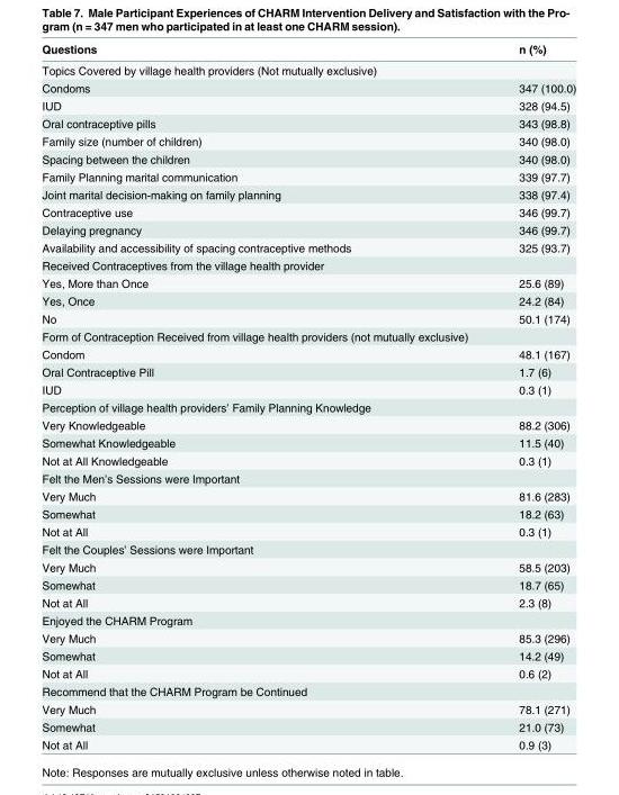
<table><thead><tr><td>Questions</td><td>n (%)</td></tr></thead><tbody><tr><td colspan="2">Topics Covered by village health providers (Not mutually exclusive)</td></tr><tr><td>Condoms</td><td>347 (100.0)</td></tr><tr><td>IUD</td><td>328 (94.5)</td></tr><tr><td>Oral contraceptive pills</td><td>343 (98.8)</td></tr><tr><td>Family size (number of children)</td><td>340 (98.0)</td></tr><tr><td>Spacing between the children</td><td>340 (98.0)</td></tr><tr><td>Family Planning marital communication</td><td>339 (97.7)</td></tr><tr><td>Joint marital decision-making on family planning</td><td>338 (97.4)</td></tr><tr><td>Contraceptive use</td><td>346 (99.7)</td></tr><tr><td>Delaying pregnancy</td><td>346 (99.7)</td></tr><tr><td>Availability and accessibility of spacing contraceptive methods</td><td>325 (93.7)</td></tr><tr><td colspan="2">Received Contraceptives from the village health provider</td></tr><tr><td>Yes, More than Once</td><td>25.6 (89)</td></tr><tr><td>Yes, Once</td><td>24.2 (84)</td></tr><tr><td>No</td><td>50.1 (174)</td></tr><tr><td colspan="2">Form of Contraception Received from village health providers (not mutually exclusive)</td></tr><tr><td>Condom</td><td>48.1 (167)</td></tr><tr><td>Oral Contraceptive Pill</td><td>1.7 (6)</td></tr><tr><td>IUD</td><td>0.3 (1)</td></tr><tr><td colspan="2">Perception of village health providers’ Family Planning Knowledge</td></tr><tr><td>Very Knowledgeable</td><td>88.2 (306)</td></tr><tr><td>Somewhat Knowledgeable</td><td>11.5 (40)</td></tr><tr><td>Not at All Knowledgeable</td><td>0.3 (1)</td></tr><tr><td colspan="2">Felt the Men’s Sessions were Important</td></tr><tr><td>Very Much</td><td>81.6 (283)</td></tr><tr><td>Somewhat</td><td>18.2 (63)</td></tr><tr><td>Not at All</td><td>0.3 (1)</td></tr><tr><td colspan="2">Felt the Couples’ Sessions were Important</td></tr><tr><td>Very Much</td><td>58.5 (203)</td></tr><tr><td>Somewhat</td><td>18.7 (65)</td></tr><tr><td>Not at All</td><td>2.3 (8)</td></tr><tr><td colspan="2">Enjoyed the CHARM Program</td></tr><tr><td>Very Much</td><td>85.3 (296)</td></tr><tr><td>Somewhat</td><td>14.2 (49)</td></tr><tr><td>Not at All</td><td>0.6 (2)</td></tr><tr><td colspan="2">Recommend that the CHARM Program be Continued</td></tr><tr><td>Very Much</td><td>78.1 (271)</td></tr><tr><td>Somewhat</td><td>21.0 (73)</td></tr><tr><td>Not at All</td><td>0.9 (3)</td></tr></tbody></table>